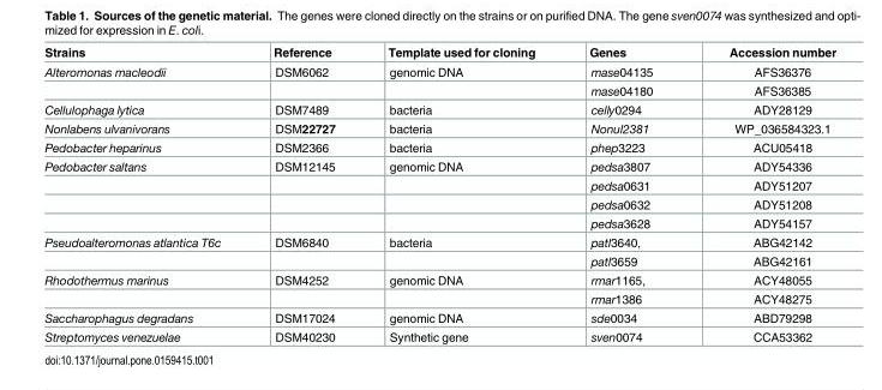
<table><thead><tr><td>Strains</td><td>Reference</td><td>Template used for cloning</td><td>Genes</td><td>Accession number</td></tr></thead><tbody><tr><td rowspan="2">Alteromonas macleodii</td><td>DSM6062</td><td>genomic DNA</td><td>mase04135</td><td>AFS36376</td></tr><tr><td></td><td></td><td>mase04180</td><td>AFS36385</td></tr><tr><td>Cellulophaga lytica</td><td>DSM7489</td><td>bacteria</td><td>celly0294</td><td>ADY28129</td></tr><tr><td>Nonlabens ulvanivorans</td><td>DSM22727</td><td>bacteria</td><td>Nonul2381</td><td>WP_036584323.1</td></tr><tr><td>Pedobacter heparinus</td><td>DSM2366</td><td>bacteria</td><td>phep3223</td><td>ACU05418</td></tr><tr><td rowspan="4">Pedobacter saltans</td><td>DSM12145</td><td>genomic DNA</td><td>pedsa3807</td><td>ADY54336</td></tr><tr><td></td><td></td><td>pedsa0631</td><td>ADY51207</td></tr><tr><td></td><td></td><td>pedsa0632</td><td>ADY51208</td></tr><tr><td></td><td></td><td>pedsa3628</td><td>ADY54157</td></tr><tr><td rowspan="2">Pseudoalteromonas atlantica T6c</td><td>DSM6840</td><td>bacteria</td><td>patl3640,</td><td>ABG42142</td></tr><tr><td></td><td></td><td>patl3659</td><td>ABG42161</td></tr><tr><td rowspan="2">Rhodothermus marinus</td><td>DSM4252</td><td>genomic DNA</td><td>rmar1165,</td><td>ACY48055</td></tr><tr><td></td><td></td><td>rmar1386</td><td>ACY48275</td></tr><tr><td>Saccharophagus degradans</td><td>DSM17024</td><td>genomic DNA</td><td>sde0034</td><td>ABD79298</td></tr><tr><td>Streptomyces venezuelae</td><td>DSM40230</td><td>Synthetic gene</td><td>sven0074</td><td>CCA53362</td></tr></tbody></table>